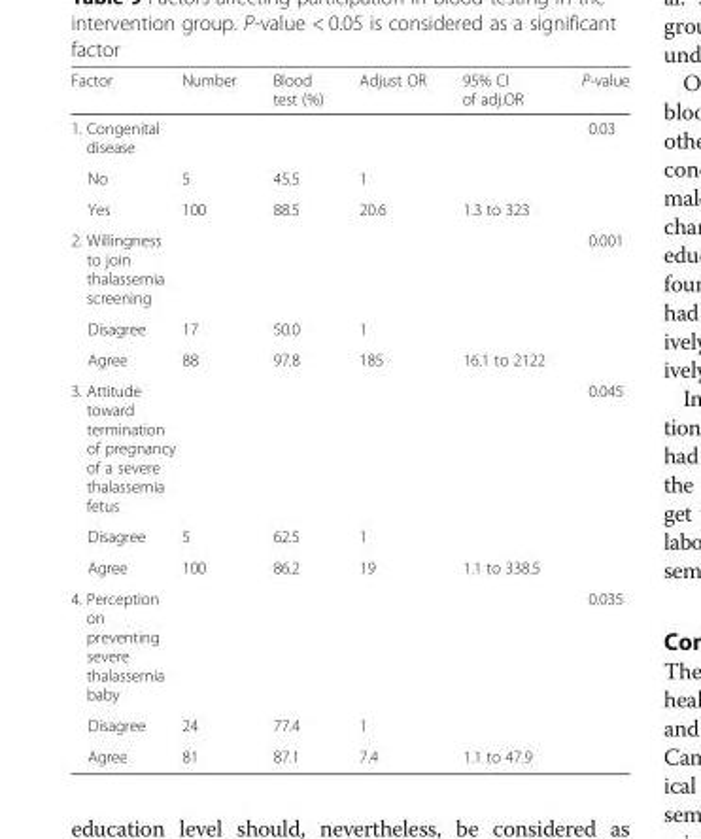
<table><thead><tr><td>Factor</td><td>Number</td><td>Blood test (%)</td><td>Adjust OR</td><td>95% CI of adj.OR</td><td>P-value</td></tr></thead><tbody><tr><td colspan="5">1. Congenital disease</td><td>0.03</td></tr><tr><td>No</td><td>5</td><td>45.5</td><td>1</td><td></td><td></td></tr><tr><td>Yes</td><td>100</td><td>88.5</td><td>20.6</td><td>1.3 to 323</td><td></td></tr><tr><td colspan="5">2. Willingness to join thalassemia screening</td><td>0.001</td></tr><tr><td>Disagree</td><td>17</td><td>50.0</td><td>1</td><td></td><td></td></tr><tr><td>Agree</td><td>88</td><td>97.8</td><td>185</td><td>16.1 to 2122</td><td></td></tr><tr><td colspan="5">3. Attitude toward termination of pregnancy of a severe thalassemia fetus</td><td>0.045</td></tr><tr><td>Disagree</td><td>5</td><td>62.5</td><td>1</td><td></td><td></td></tr><tr><td>Agree</td><td>100</td><td>86.2</td><td>19</td><td>1.1 to 338.5</td><td></td></tr><tr><td colspan="5">4. Perception on preventing severe thalassemia baby</td><td>0.035</td></tr><tr><td>Disagree</td><td>24</td><td>77.4</td><td>1</td><td></td><td></td></tr><tr><td>Agree</td><td>81</td><td>87.1</td><td>7.4</td><td>1.1 to 47.9</td><td></td></tr></tbody></table>